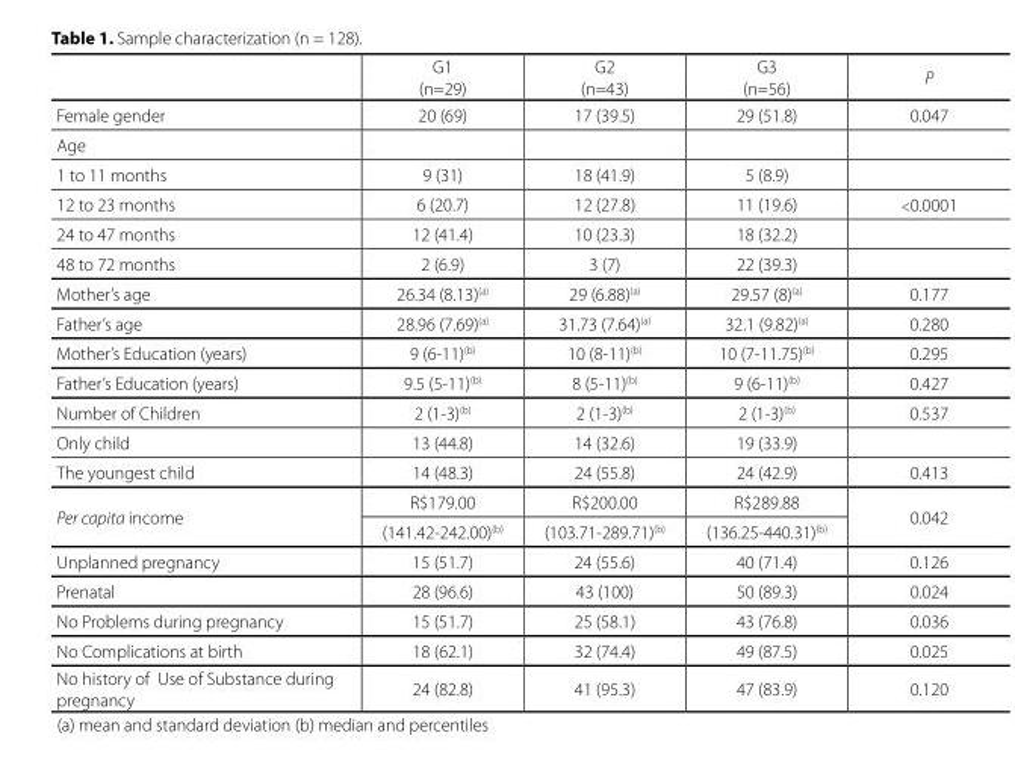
<table><thead><tr><td></td><td>G1 (n=29)</td><td>G2 (n=43)</td><td>G3 (n=56)</td><td>P</td></tr></thead><tbody><tr><td>Female gender</td><td>20 (69)</td><td>17 (39.5)</td><td>29 (51.8)</td><td>0.047</td></tr><tr><td colspan="5">Age</td></tr><tr><td>1 to 11 months</td><td>9 (31)</td><td>18 (41.9)</td><td>5 (8.9)</td><td></td></tr><tr><td>12 to 23 months</td><td>6 (20.7)</td><td>12 (27.8)</td><td>11 (19.6)</td><td>&lt;0.0001</td></tr><tr><td>24 to 47 months</td><td>12 (41.4)</td><td>10 (23.3)</td><td>18 (32.2)</td><td></td></tr><tr><td>48 to 72 months</td><td>2 (6.9)</td><td>3 (7)</td><td>22 (39.3)</td><td></td></tr><tr><td>Mother’s age</td><td>26.34 (8.13)<sup>(a)</sup></td><td>29 (6.88)<sup>(a)</sup></td><td>29.57 (8)<sup>(a)</sup></td><td>0.177</td></tr><tr><td>Father’s age</td><td>28.96 (7.69)<sup>(a)</sup></td><td>31.73 (7.64)<sup>(a)</sup></td><td>32.1 (9.82)<sup>(a)</sup></td><td>0.280</td></tr><tr><td>Mother’s Education (years)</td><td>9 (6-11)<sup>(b)</sup></td><td>10 (8-11)<sup>(b)</sup></td><td>10 (7-11.75)<sup>(b)</sup></td><td>0.295</td></tr><tr><td>Father’s Education (years)</td><td>9.5 (5-11)<sup>(b)</sup></td><td>8 (5-11)<sup>(b)</sup></td><td>9 (6-11)<sup>(b)</sup></td><td>0.427</td></tr><tr><td>Number of Children</td><td>2 (1-3)<sup>(b)</sup></td><td>2 (1-3)<sup>(b)</sup></td><td>2 (1-3)<sup>(b)</sup></td><td>0.537</td></tr><tr><td>Only child</td><td>13 (44.8)</td><td>14 (32.6)</td><td>19 (33.9)</td><td></td></tr><tr><td>The youngest child</td><td>14 (48.3)</td><td>24 (55.8)</td><td>24 (42.9)</td><td>0.413</td></tr><tr><td rowspan="2">Per capita income</td><td>R$179.00</td><td>R$200.00</td><td>R$289.88</td><td rowspan="2">0.042</td></tr><tr><td>(141.42-242.00)<sup>(b)</sup></td><td>(103.71-289.71)<sup>(b)</sup></td><td>(136.25-440.31)<sup>(b)</sup></td></tr><tr><td>Unplanned pregnancy</td><td>15 (51.7)</td><td>24 (55.6)</td><td>40 (71.4)</td><td>0.126</td></tr><tr><td>Prenatal</td><td>28 (96.6)</td><td>43 (100)</td><td>50 (89.3)</td><td>0.024</td></tr><tr><td>No Problems during pregnancy</td><td>15 (51.7)</td><td>25 (58.1)</td><td>43 (76.8)</td><td>0.036</td></tr><tr><td>No Complications at birth</td><td>18 (62.1)</td><td>32 (74.4)</td><td>49 (87.5)</td><td>0.025</td></tr><tr><td>No history of Use of Substance during pregnancy</td><td>24 (82.8)</td><td>41 (95.3)</td><td>47 (83.9)</td><td>0.120</td></tr></tbody></table>